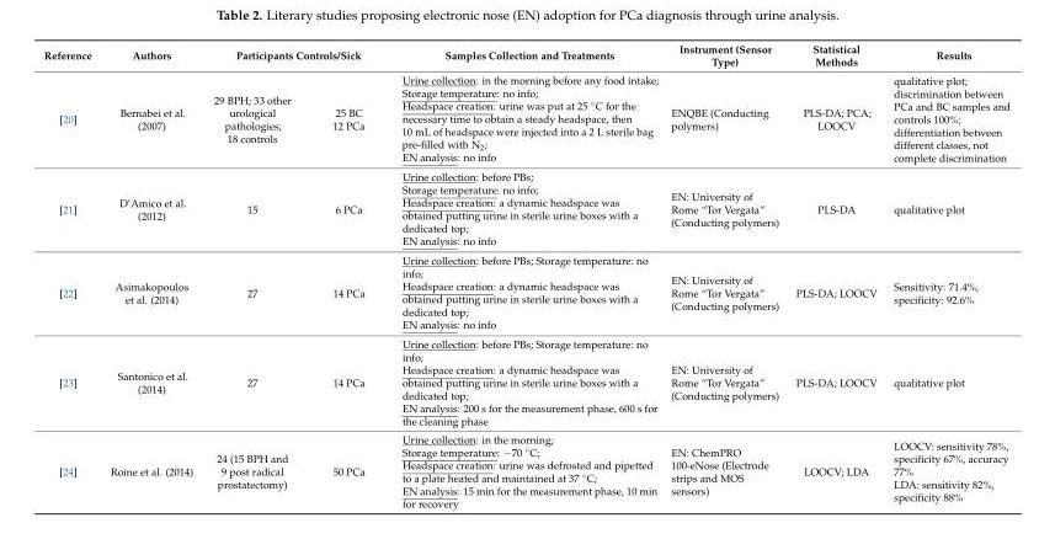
<table><thead><tr><td rowspan="2">Reference [20]</td><td rowspan="2">Authors Bernabei et al. (2007)</td><td colspan="2">Participants Controls/Sick</td><td rowspan="2">Samples Collection and Treatments Urine collection: in the morning before any food intake; Storage temperature: no info; Headspace creation: urine was put at 25 ◦C for the necessary time to obtain a steady headspace, then 10 mL of headspace were injected into a 2 L sterile bag pre-filled with N2; EN analysis: no info</td><td rowspan="2">Instrument (Sensor Type) ENQBE (Conducting polymers)</td><td rowspan="2">Statistical Methods PLS-DA; PCA; LOOCV</td><td rowspan="2">Results qualitative plot; discrimination between PCa and BC samples and controls 100%; differentiation between different classes, not complete discrimination</td></tr><tr><td>29 BPH; 33 other urological pathologies; 18 controls</td><td>25 BC 12 PCa</td></tr></thead><tbody><tr><td>[21]</td><td>D’Amico et al. (2012)</td><td>15</td><td>6 PCa</td><td>Urine collection: before PBs; Storage temperature: no info; Headspace creation: a dynamic headspace was obtained putting urine in sterile urine boxes with a dedicated top; EN analysis: no info</td><td>EN: University of Rome “Tor Vergata” (Conducting polymers)</td><td>PLS-DA</td><td>qualitative plot</td></tr><tr><td>[22]</td><td>Asimakopoulos et al. (2014)</td><td>27</td><td>14 PCa</td><td>Urine collection: before PBs; Storage temperature: no info; Headspace creation: a dynamic headspace was obtained putting urine in sterile urine boxes with a dedicated top; EN analysis: no info</td><td>EN: University of Rome “Tor Vergata” (Conducting polymers)</td><td>PLS-DA; LOOCV</td><td>Sensitivity: 71.4%, specificity: 92.6%</td></tr><tr><td>[23]</td><td>Santonico et al. (2014)</td><td>27</td><td>14 PCa</td><td>Urine collection: before PBs; Storage temperature: no info; Headspace creation: a dynamic headspace was obtained putting urine in sterile urine boxes with a dedicated top; EN analysis: 200 s for the measurement phase, 600 s for the cleaning phase</td><td>EN: University of Rome “Tor Vergata” (Conducting polymers)</td><td>PLS-DA; LOOCV</td><td>qualitative plot</td></tr><tr><td>[24]</td><td>Roine et al. (2014)</td><td>24 (15 BPH and 9 post radical prostatectomy)</td><td>50 PCa</td><td>Urine collection: in the morning; Storage temperature: −70 ◦C; Headspace creation: urine was defrosted and pipetted to a plate heated and maintained at 37 ◦C; EN analysis: 15 min for the measurement phase, 10 min for recovery</td><td>EN: ChemPRO 100-eNose (Electrode strips and MOS sensors)</td><td>LOOCV; LDA</td><td>LOOCV: sensitivity 78%, specificity 67%, accuracy 77% LDA: sensitivity 82%, specificity 88%</td></tr></tbody></table>